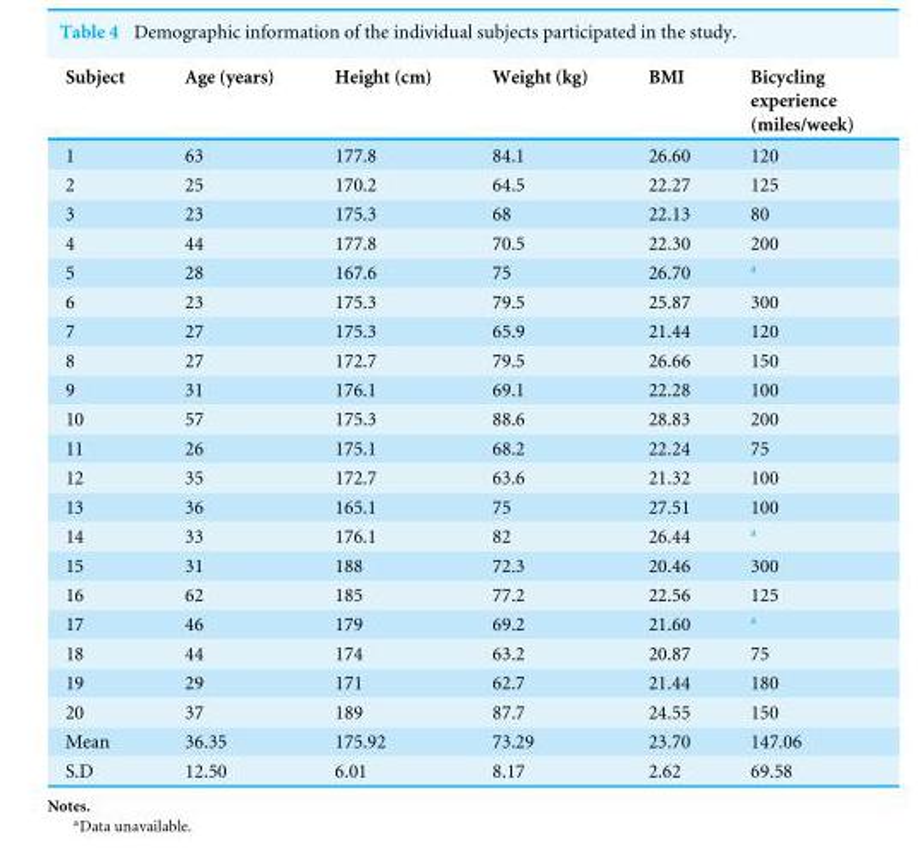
<table><thead><tr><td>Subject</td><td>Age (years)</td><td>Height (cm)</td><td>Weight (kg)</td><td>BMI</td><td>Bicycling experience (miles/week)</td></tr></thead><tbody><tr><td>1</td><td>63</td><td>177.8</td><td>84.1</td><td>26.60</td><td>120</td></tr><tr><td>2</td><td>25</td><td>170.2</td><td>64.5</td><td>22.27</td><td>125</td></tr><tr><td>3</td><td>23</td><td>175.3</td><td>68</td><td>22.13</td><td>80</td></tr><tr><td>4</td><td>44</td><td>177.8</td><td>70.5</td><td>22.30</td><td>200</td></tr><tr><td>5</td><td>28</td><td>167.6</td><td>75</td><td>26.70</td><td><sup>a</sup></td></tr><tr><td>6</td><td>23</td><td>175.3</td><td>79.5</td><td>25.87</td><td>300</td></tr><tr><td>7</td><td>27</td><td>175.3</td><td>65.9</td><td>21.44</td><td>120</td></tr><tr><td>8</td><td>27</td><td>172.7</td><td>79.5</td><td>26.66</td><td>150</td></tr><tr><td>9</td><td>31</td><td>176.1</td><td>69.1</td><td>22.28</td><td>100</td></tr><tr><td>10</td><td>57</td><td>175.3</td><td>88.6</td><td>28.83</td><td>200</td></tr><tr><td>11</td><td>26</td><td>175.1</td><td>68.2</td><td>22.24</td><td>75</td></tr><tr><td>12</td><td>35</td><td>172.7</td><td>63.6</td><td>21.32</td><td>100</td></tr><tr><td>13</td><td>36</td><td>165.1</td><td>75</td><td>27.51</td><td>100</td></tr><tr><td>14</td><td>33</td><td>176.1</td><td>82</td><td>26.44</td><td><sup>a</sup></td></tr><tr><td>15</td><td>31</td><td>188</td><td>72.3</td><td>20.46</td><td>300</td></tr><tr><td>16</td><td>62</td><td>185</td><td>77.2</td><td>22.56</td><td>125</td></tr><tr><td>17</td><td>46</td><td>179</td><td>69.2</td><td>21.60</td><td><sup>a</sup></td></tr><tr><td>18</td><td>44</td><td>174</td><td>63.2</td><td>20.87</td><td>75</td></tr><tr><td>19</td><td>29</td><td>171</td><td>62.7</td><td>21.44</td><td>180</td></tr><tr><td>20</td><td>37</td><td>189</td><td>87.7</td><td>24.55</td><td>150</td></tr><tr><td>Mean</td><td>36.35</td><td>175.92</td><td>73.29</td><td>23.70</td><td>147.06</td></tr><tr><td>S.D</td><td>12.50</td><td>6.01</td><td>8.17</td><td>2.62</td><td>69.58</td></tr></tbody></table>